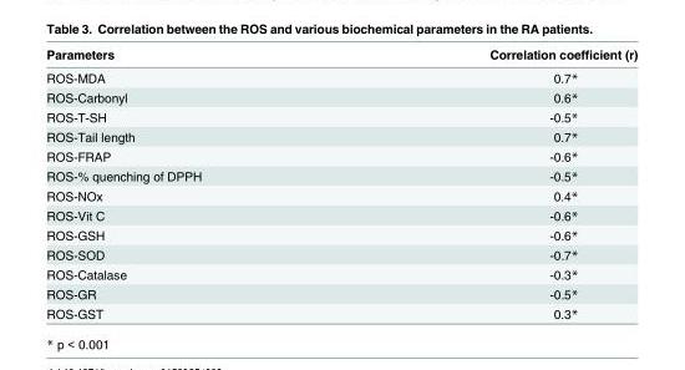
<table><thead><tr><td>Parameters</td><td>Correlation coefficient (r)</td></tr></thead><tbody><tr><td>ROS-MDA</td><td>0.7*</td></tr><tr><td>ROS-Carbonyl</td><td>0.6*</td></tr><tr><td>ROS-T-SH</td><td>-0.5*</td></tr><tr><td>ROS-Tail length</td><td>0.7*</td></tr><tr><td>ROS-FRAP</td><td>-0.6*</td></tr><tr><td>ROS-% quenching of DPPH</td><td>-0.5*</td></tr><tr><td>ROS-NOx</td><td>0.4*</td></tr><tr><td>ROS-Vit C</td><td>-0.6*</td></tr><tr><td>ROS-GSH</td><td>-0.6*</td></tr><tr><td>ROS-SOD</td><td>-0.7*</td></tr><tr><td>ROS-Catalase</td><td>-0.3*</td></tr><tr><td>ROS-GR</td><td>-0.5*</td></tr><tr><td>ROS-GST</td><td>0.3*</td></tr></tbody></table>